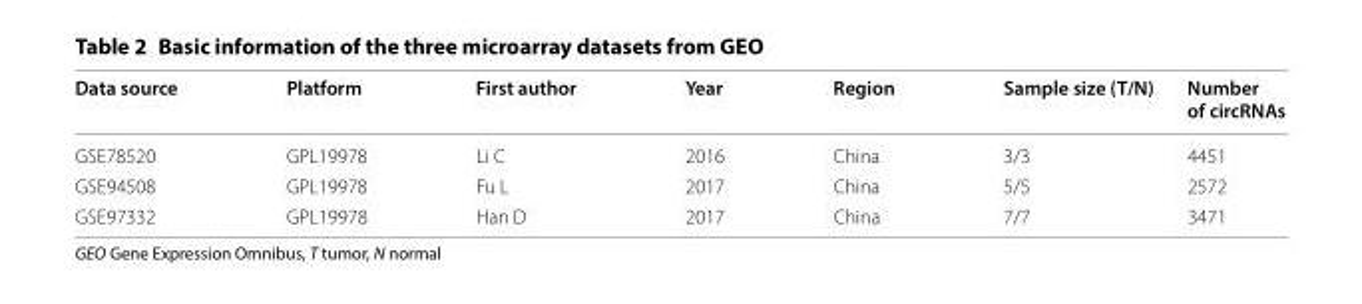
<table><thead><tr><td>Data source</td><td>Platform</td><td>First author</td><td>Year</td><td>Region</td><td>Sample size (T/N)</td><td>Number of circRNAs</td></tr></thead><tbody><tr><td>GSE78520</td><td>GPL19978</td><td>Li C</td><td>2016</td><td>China</td><td>3/3</td><td>4451</td></tr><tr><td>GSE94508</td><td>GPL19978</td><td>Fu L</td><td>2017</td><td>China</td><td>5/5</td><td>2572</td></tr><tr><td>GSE97332</td><td>GPL19978</td><td>Han D</td><td>2017</td><td>China</td><td>7/7</td><td>3471</td></tr></tbody></table>